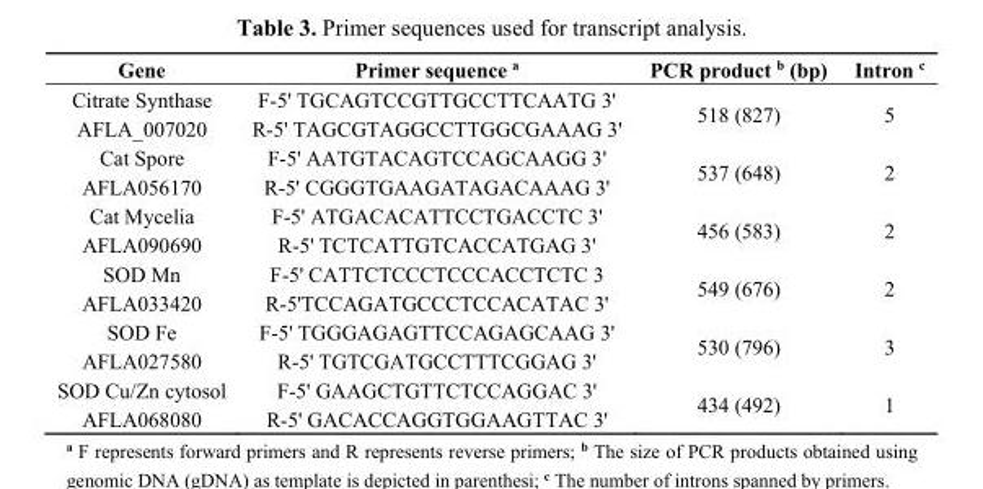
<table><thead><tr><td>Gene</td><td>Primer sequence <sup>a</sup></td><td>PCR product <sup>b</sup> (bp)</td><td>Intron <sup>c</sup></td></tr></thead><tbody><tr><td>Citrate Synthase AFLA_007020</td><td>F-5&#x27; TGCAGTCCGTTGCCTTCAATG 3&#x27; R-5&#x27; TAGCGTAGGCCTTGGCGAAAG 3&#x27;</td><td>518 (827)</td><td>5</td></tr><tr><td>Cat Spore AFLA056170</td><td>F-5&#x27; AATGTACAGTCCAGCAAGG 3&#x27; R-5&#x27; CGGGTGAAGATAGACAAAG 3&#x27;</td><td>537 (648)</td><td>2</td></tr><tr><td>Cat Mycelia AFLA090690</td><td>F-5&#x27; ATGACACATTCCTGACCTC 3&#x27; R-5&#x27; TCTCATTGTCACCATGAG 3&#x27;</td><td>456 (583)</td><td>2</td></tr><tr><td>SOD Mn AFLA033420</td><td>F-5&#x27; CATTCTCCCTCCCACCTCTC 3 R-5&#x27;TCCAGATGCCCTCCACATAC 3&#x27;</td><td>549 (676)</td><td>2</td></tr><tr><td>SOD Fe AFLA027580</td><td>F-5&#x27; TGGGAGAGTTCCAGAGCAAG 3&#x27; R-5&#x27; TGTCGATGCCTTTCGGAG 3&#x27;</td><td>530 (796)</td><td>3</td></tr><tr><td>SOD Cu/Zn cytosol AFLA068080</td><td>F-5&#x27; GAAGCTGTTCTCCAGGAC 3&#x27; R-5&#x27; GACACCAGGTGGAAGTTAC 3&#x27;</td><td>434 (492)</td><td>1</td></tr></tbody></table>